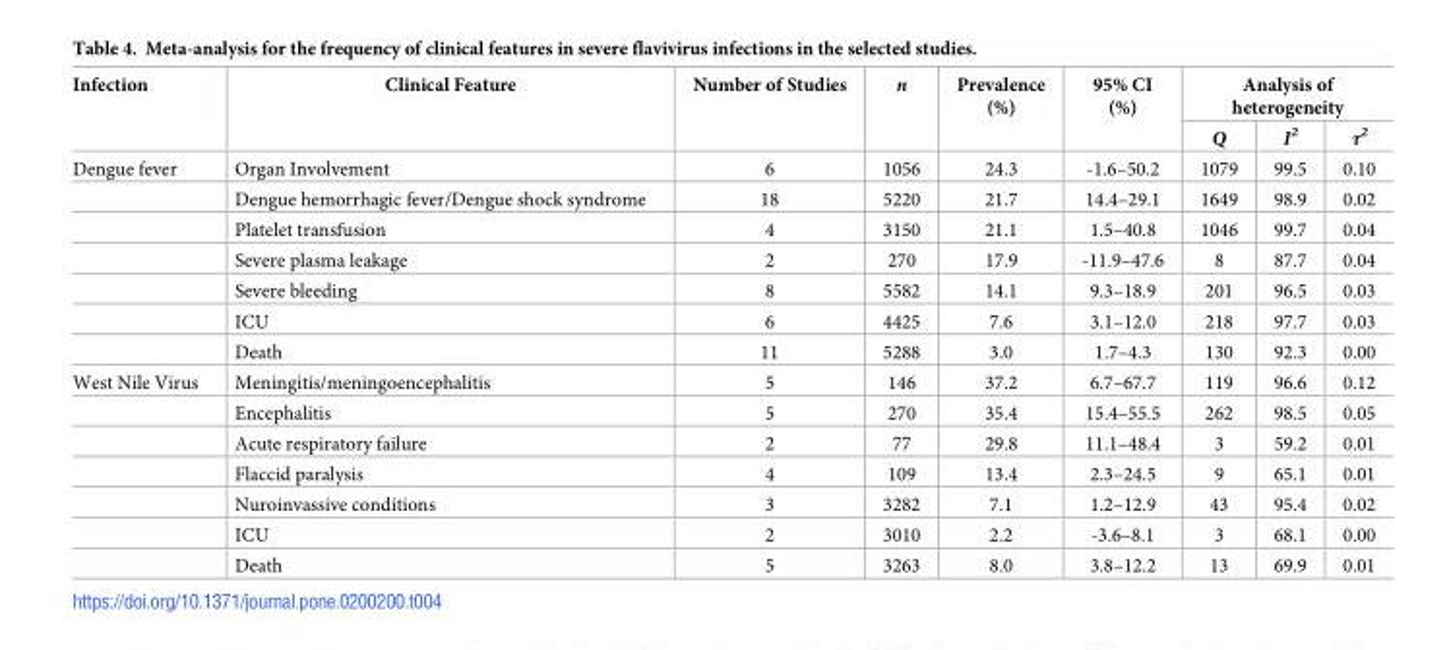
<table><thead><tr><td rowspan="2">Infection</td><td rowspan="2">Clinical Feature</td><td rowspan="2">Number of Studies</td><td rowspan="2">n</td><td rowspan="2">Prevalence (%)</td><td rowspan="2">95% CI (%)</td><td colspan="3">Analysis of heterogeneity</td></tr><tr><td>Q</td><td>I<sup>2</sup></td><td>τ<sup>2</sup></td></tr></thead><tbody><tr><td rowspan="7">Dengue fever</td><td>Organ Involvement</td><td>6</td><td>1056</td><td>24.3</td><td>-1.6–50.2</td><td>1079</td><td>99.5</td><td>0.10</td></tr><tr><td>Dengue hemorrhagic fever/Dengue shock syndrome</td><td>18</td><td>5220</td><td>21.7</td><td>14.4–29.1</td><td>1649</td><td>98.9</td><td>0.02</td></tr><tr><td>Platelet transfusion</td><td>4</td><td>3150</td><td>21.1</td><td>1.5–40.8</td><td>1046</td><td>99.7</td><td>0.04</td></tr><tr><td>Severe plasma leakage</td><td>2</td><td>270</td><td>17.9</td><td>-11.9–47.6</td><td>8</td><td>87.7</td><td>0.04</td></tr><tr><td>Severe bleeding</td><td>8</td><td>5582</td><td>14.1</td><td>9.3–18.9</td><td>201</td><td>96.5</td><td>0.03</td></tr><tr><td>ICU</td><td>6</td><td>4425</td><td>7.6</td><td>3.1–12.0</td><td>218</td><td>97.7</td><td>0.03</td></tr><tr><td>Death</td><td>11</td><td>5288</td><td>3.0</td><td>1.7–4.3</td><td>130</td><td>92.3</td><td>0.00</td></tr><tr><td rowspan="7">West Nile Virus</td><td>Meningitis/meningoencephalitis</td><td>5</td><td>146</td><td>37.2</td><td>6.7–67.7</td><td>119</td><td>96.6</td><td>0.12</td></tr><tr><td>Encephalitis</td><td>5</td><td>270</td><td>35.4</td><td>15.4–55.5</td><td>262</td><td>98.5</td><td>0.05</td></tr><tr><td>Acute respiratory failure</td><td>2</td><td>77</td><td>29.8</td><td>11.1–48.4</td><td>3</td><td>59.2</td><td>0.01</td></tr><tr><td>Flaccid paralysis</td><td>4</td><td>109</td><td>13.4</td><td>2.3–24.5</td><td>9</td><td>65.1</td><td>0.01</td></tr><tr><td>Nuroinvassive conditions</td><td>3</td><td>3282</td><td>7.1</td><td>1.2–12.9</td><td>43</td><td>95.4</td><td>0.02</td></tr><tr><td>ICU</td><td>2</td><td>3010</td><td>2.2</td><td>-3.6–8.1</td><td>3</td><td>68.1</td><td>0.00</td></tr><tr><td>Death</td><td>5</td><td>3263</td><td>8.0</td><td>3.8–12.2</td><td>13</td><td>69.9</td><td>0.01</td></tr></tbody></table>